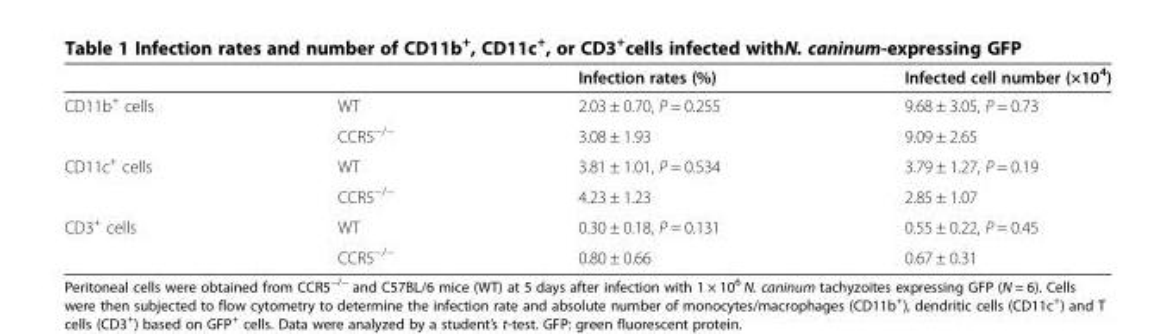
<table><thead><tr><td></td><td></td><td>Infection rates (%)</td><td>Infected cell number (×10<sup>4</sup>)</td></tr></thead><tbody><tr><td rowspan="2">CD11b<sup>+</sup> cells</td><td>WT</td><td>2.03 ± 0.70, P = 0.255</td><td>9.68 ± 3.05, P = 0.73</td></tr><tr><td>CCR5<sup>−/−</sup></td><td>3.08 ± 1.93</td><td>9.09 ± 2.65</td></tr><tr><td rowspan="2">CD11c<sup>+</sup> cells</td><td>WT</td><td>3.81 ± 1.01, P = 0.534</td><td>3.79 ± 1.27, P = 0.19</td></tr><tr><td>CCR5<sup>−/−</sup></td><td>4.23 ± 1.23</td><td>2.85 ± 1.07</td></tr><tr><td rowspan="2">CD3<sup>+</sup> cells</td><td>WT</td><td>0.30 ± 0.18, P = 0.131</td><td>0.55 ± 0.22, P = 0.45</td></tr><tr><td>CCR5<sup>−/−</sup></td><td>0.80 ± 0.66</td><td>0.67 ± 0.31</td></tr></tbody></table>